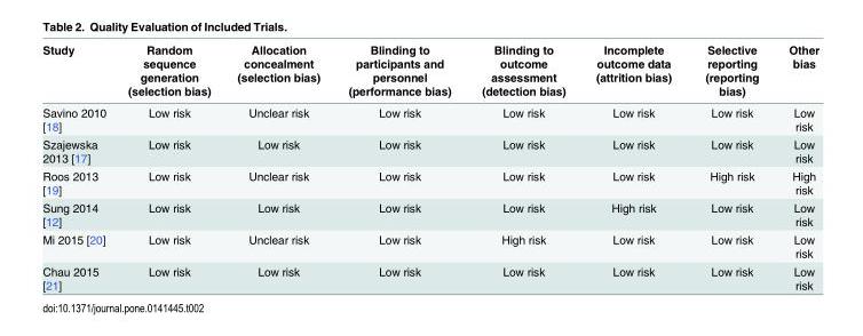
<table><thead><tr><td>Study</td><td>Random sequence generation (selection bias)</td><td>Allocation concealment (selection bias)</td><td>Blinding to participants and personnel (performance bias)</td><td>Blinding to outcome assessment (detection bias)</td><td>Incomplete outcome data (attrition bias)</td><td>Selective reporting (reporting bias)</td><td>Other bias</td></tr></thead><tbody><tr><td>Savino 2010 [18]</td><td>Low risk</td><td>Unclear risk</td><td>Low risk</td><td>Low risk</td><td>Low risk</td><td>Low risk</td><td>Low risk</td></tr><tr><td>Szajewska 2013 [17]</td><td>Low risk</td><td>Low risk</td><td>Low risk</td><td>Low risk</td><td>Low risk</td><td>Low risk</td><td>Low risk</td></tr><tr><td>Roos 2013 [19]</td><td>Low risk</td><td>Unclear risk</td><td>Low risk</td><td>Low risk</td><td>Low risk</td><td>High risk</td><td>High risk</td></tr><tr><td>Sung 2014 [12]</td><td>Low risk</td><td>Low risk</td><td>Low risk</td><td>Low risk</td><td>High risk</td><td>Low risk</td><td>Low risk</td></tr><tr><td>Mi 2015 [20]</td><td>Low risk</td><td>Unclear risk</td><td>Low risk</td><td>High risk</td><td>Low risk</td><td>Low risk</td><td>Low risk</td></tr><tr><td>Chau 2015 [21]</td><td>Low risk</td><td>Low risk</td><td>Low risk</td><td>Low risk</td><td>Low risk</td><td>Low risk</td><td>Low risk</td></tr></tbody></table>